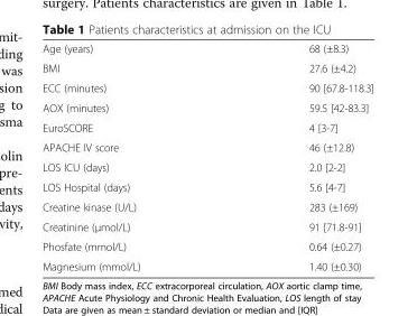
<table><tbody><tr><td>Age (years)</td><td>68 (±8.3)</td></tr><tr><td>BMI</td><td>27.6 (±4.2)</td></tr><tr><td>ECC (minutes)</td><td>90 [67.8-118.3]</td></tr><tr><td>AOX (minutes)</td><td>59.5 [42-83.3]</td></tr><tr><td>EuroSCORE</td><td>4 [3-7]</td></tr><tr><td>APACHE IV score</td><td>46 (±12.8)</td></tr><tr><td>LOS ICU (days)</td><td>2.0 [2-2]</td></tr><tr><td>LOS Hospital (days)</td><td>5.6 [4-7]</td></tr><tr><td>Creatine kinase (U/L)</td><td>283 (±169)</td></tr><tr><td>Creatinine (μmol/L)</td><td>91 [71.8-91]</td></tr><tr><td>Phosfate (mmol/L)</td><td>0.64 (±0.27)</td></tr><tr><td>Magnesium (mmol/L)</td><td>1.40 (±0.30)</td></tr></tbody></table>